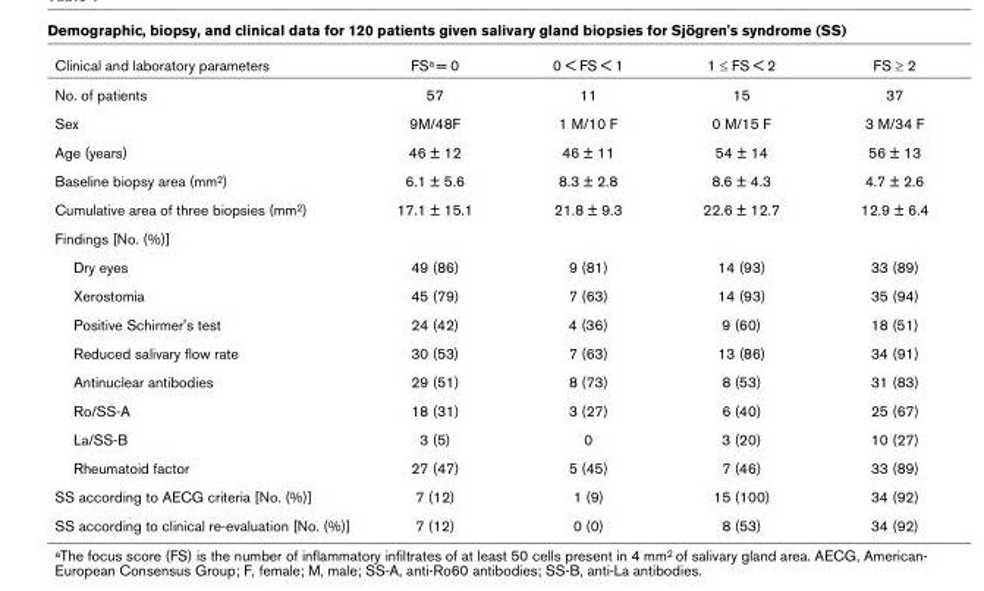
<table><thead><tr><td>Clinical and laboratory parameters</td><td>FSa = 0</td><td>0 &lt; FS &lt; 1</td><td>1 ≤ FS &lt; 2</td><td>FS ≥ 2</td></tr></thead><tbody><tr><td>No. of patients</td><td>57</td><td>11</td><td>15</td><td>37</td></tr><tr><td>Sex</td><td>9M/48F</td><td>1 M/10 F</td><td>0 M/15 F</td><td>3 M/34 F</td></tr><tr><td>Age (years)</td><td>46 ± 12</td><td>46 ± 11</td><td>54 ± 14</td><td>56 ± 13</td></tr><tr><td>Baseline biopsy area (mm2)</td><td>6.1 ± 5.6</td><td>8.3 ± 2.8</td><td>8.6 ± 4.3</td><td>4.7 ± 2.6</td></tr><tr><td>Cumulative area of three biopsies (mm2)</td><td>17.1 ± 15.1</td><td>21.8 ± 9.3</td><td>22.6 ± 12.7</td><td>12.9 ± 6.4</td></tr><tr><td colspan="5">Findings [No. (%)]</td></tr><tr><td>Dry eyes</td><td>49 (86)</td><td>9 (81)</td><td>14 (93)</td><td>33 (89)</td></tr><tr><td>Xerostomia</td><td>45 (79)</td><td>7 (63)</td><td>14 (93)</td><td>35 (94)</td></tr><tr><td>Positive Schirmer&#x27;s test</td><td>24 (42)</td><td>4 (36)</td><td>9 (60)</td><td>18 (51)</td></tr><tr><td>Reduced salivary flow rate</td><td>30 (53)</td><td>7 (63)</td><td>13 (86)</td><td>34 (91)</td></tr><tr><td>Antinuclear antibodies</td><td>29 (51)</td><td>8 (73)</td><td>8 (53)</td><td>31 (83)</td></tr><tr><td>Ro/SS-A</td><td>18 (31)</td><td>3 (27)</td><td>6 (40)</td><td>25 (67)</td></tr><tr><td>La/SS-B</td><td>3 (5)</td><td>0</td><td>3 (20)</td><td>10 (27)</td></tr><tr><td>Rheumatoid factor</td><td>27 (47)</td><td>5 (45)</td><td>7 (46)</td><td>33 (89)</td></tr><tr><td>SS according to AECG criteria [No. (%)]</td><td>7 (12)</td><td>1 (9)</td><td>15 (100)</td><td>34 (92)</td></tr><tr><td>SS according to clinical re-evaluation [No. (%)]</td><td>7 (12)</td><td>0 (0)</td><td>8 (53)</td><td>34 (92)</td></tr></tbody></table>